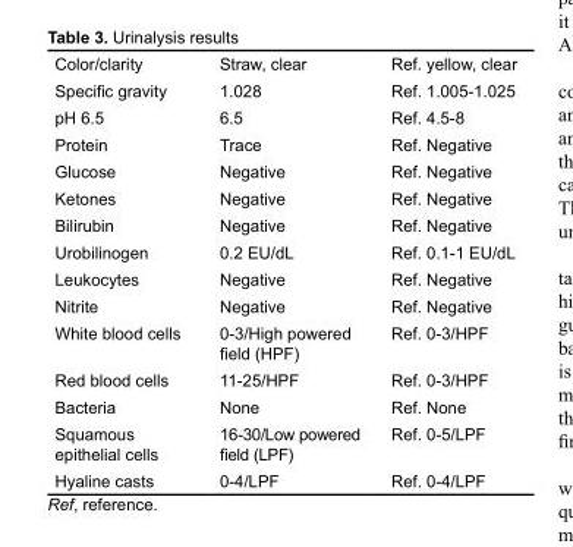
<table><tbody><tr><td>Color/clarity</td><td>Straw, clear</td><td>Ref. yellow, clear</td></tr><tr><td>Specific gravity</td><td>1.028</td><td>Ref. 1.005-1.025</td></tr><tr><td>pH 6.5</td><td>6.5</td><td>Ref. 4.5-8</td></tr><tr><td>Protein</td><td>Trace</td><td>Ref. Negative</td></tr><tr><td>Glucose</td><td>Negative</td><td>Ref. Negative</td></tr><tr><td>Ketones</td><td>Negative</td><td>Ref. Negative</td></tr><tr><td>Bilirubin</td><td>Negative</td><td>Ref. Negative</td></tr><tr><td>Urobilinogen</td><td>0.2 EU/dL</td><td>Ref. 0.1-1 EU/dL</td></tr><tr><td>Leukocytes</td><td>Negative</td><td>Ref. Negative</td></tr><tr><td>Nitrite</td><td>Negative</td><td>Ref. Negative</td></tr><tr><td>White blood cells</td><td>0-3/High powered field (HPF)</td><td>Ref. 0-3/HPF</td></tr><tr><td>Red blood cells</td><td>11-25/HPF</td><td>Ref. 0-3/HPF</td></tr><tr><td>Bacteria</td><td>None</td><td>Ref. None</td></tr><tr><td>Squamous epithelial cells</td><td>16-30/Low powered field (LPF)</td><td>Ref. 0-5/LPF</td></tr><tr><td>Hyaline casts</td><td>0-4/LPF</td><td>Ref. 0-4/LPF</td></tr></tbody></table>